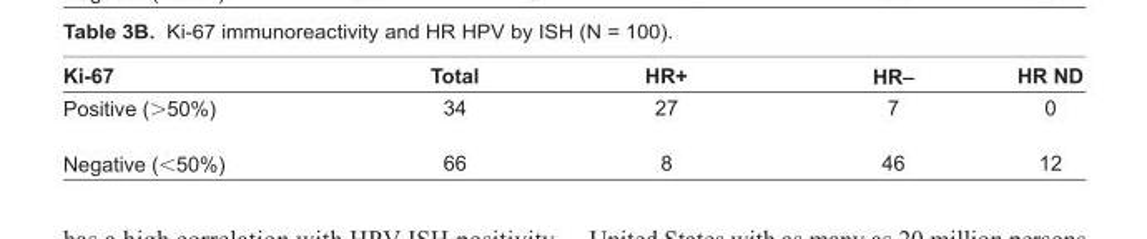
<table><thead><tr><td>Ki-67</td><td>Total</td><td>HR+</td><td>HR−</td><td>HR ND</td></tr></thead><tbody><tr><td>Positive (&gt;50%)</td><td>34</td><td>27</td><td>7</td><td>0</td></tr><tr><td>Negative (&lt;50%)</td><td>66</td><td>8</td><td>46</td><td>12</td></tr></tbody></table>